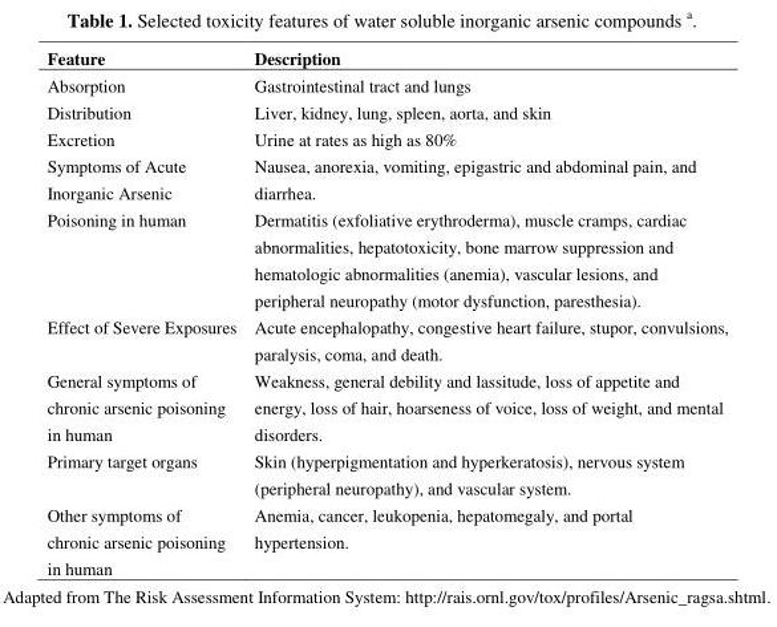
<table><thead><tr><td>Feature</td><td>Description</td></tr></thead><tbody><tr><td>Absorption</td><td>Gastrointestinal tract and lungs</td></tr><tr><td>Distribution</td><td>Liver, kidney, lung, spleen, aorta, and skin</td></tr><tr><td>Excretion</td><td>Urine at rates as high as 80%</td></tr><tr><td>Symptoms of Acute Inorganic Arsenic</td><td>Nausea, anorexia, vomiting, epigastric and abdominal pain, and diarrhea.</td></tr><tr><td>Poisoning in human</td><td>Dermatitis (exfoliative erythroderma), muscle cramps, cardiac abnormalities, hepatotoxicity, bone marrow suppression and hematologic abnormalities (anemia), vascular lesions, and peripheral neuropathy (motor dysfunction, paresthesia).</td></tr><tr><td>Effect of Severe Exposures</td><td>Acute encephalopathy, congestive heart failure, stupor, convulsions, paralysis, coma, and death.</td></tr><tr><td>General symptoms of chronic arsenic poisoning in human</td><td>Weakness, general debility and lassitude, loss of appetite and energy, loss of hair, hoarseness of voice, loss of weight, and mental disorders.</td></tr><tr><td>Primary target organs</td><td>Skin (hyperpigmentation and hyperkeratosis), nervous system (peripheral neuropathy), and vascular system.</td></tr><tr><td>Other symptoms of chronic arsenic poisoning in human</td><td>Anemia, cancer, leukopenia, hepatomegaly, and portal hypertension.</td></tr></tbody></table>